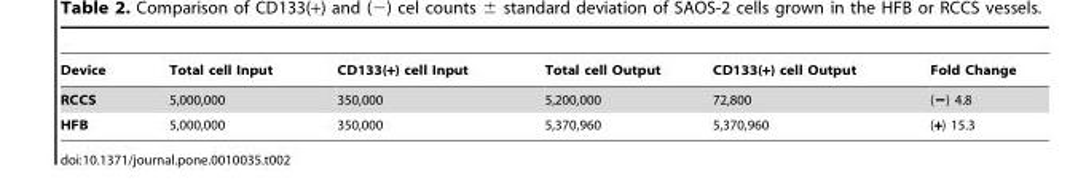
<table><thead><tr><td>Device</td><td>Total cell Input</td><td>CD133(+) cell Input</td><td>Total cell Output</td><td>CD133(+) cell Output</td><td>Fold Change</td></tr></thead><tbody><tr><td>RCCS</td><td>5,000,000</td><td>350,000</td><td>5,200,000</td><td>72,800</td><td>(−) 4.8</td></tr><tr><td>HFB</td><td>5,000,000</td><td>350,000</td><td>5,370,960</td><td>5,370,960</td><td>(+) 15.3</td></tr></tbody></table>